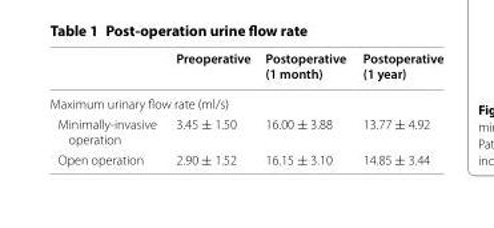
<table><thead><tr><td></td><td>Preoperative</td><td>Postoperative (1 month)</td><td>Postoperative (1 year)</td></tr></thead><tbody><tr><td colspan="4">Maximum urinary flow rate (ml/s)</td></tr><tr><td>Minimally-invasive operation</td><td>3.45 ± 1.50</td><td>16.00 ± 3.88</td><td>13.77 ± 4.92</td></tr><tr><td>Open operation</td><td>2.90 ± 1.52</td><td>16.15 ± 3.10</td><td>14.85 ± 3.44</td></tr></tbody></table>